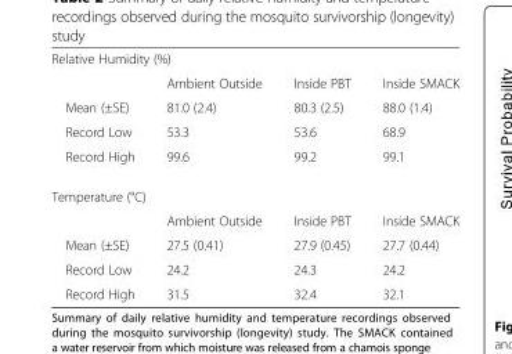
<table><tbody><tr><td colspan="4">Relative Humidity (%)</td></tr><tr><td></td><td>Ambient Outside</td><td>Inside PBT</td><td>Inside SMACK</td></tr><tr><td>Mean (±SE)</td><td>81.0 (2.4)</td><td>80.3 (2.5)</td><td>88.0 (1.4)</td></tr><tr><td>Record Low</td><td>53.3</td><td>53.6</td><td>68.9</td></tr><tr><td>Record High</td><td>99.6</td><td>99.2</td><td>99.1</td></tr><tr><td colspan="4">Temperature (°C)</td></tr><tr><td></td><td>Ambient Outside</td><td>Inside PBT</td><td>Inside SMACK</td></tr><tr><td>Mean (±SE)</td><td>27.5 (0.41)</td><td>27.9 (0.45)</td><td>27.7 (0.44)</td></tr><tr><td>Record Low</td><td>24.2</td><td>24.3</td><td>24.2</td></tr><tr><td>Record High</td><td>31.5</td><td>32.4</td><td>32.1</td></tr></tbody></table>